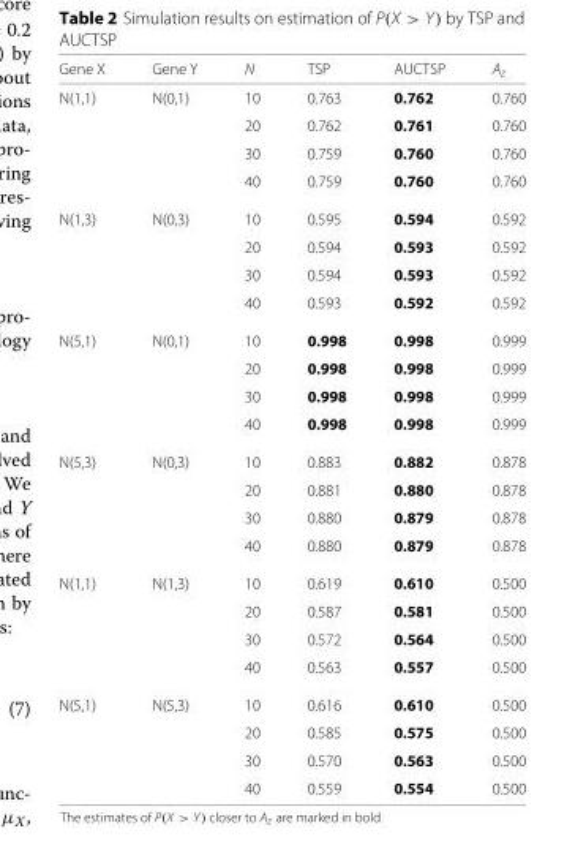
<table><thead><tr><td>Gene X</td><td>Gene Y</td><td>N</td><td>TSP</td><td>AUCTSP</td><td>A<sub>z</sub></td></tr></thead><tbody><tr><td rowspan="4">N(1,1)</td><td>N(0,1)</td><td>10</td><td>0.763</td><td>0.762</td><td>0.760</td></tr><tr><td></td><td>20</td><td>0.762</td><td>0.761</td><td>0.760</td></tr><tr><td></td><td>30</td><td>0.759</td><td>0.760</td><td>0.760</td></tr><tr><td></td><td>40</td><td>0.759</td><td>0.760</td><td>0.760</td></tr><tr><td rowspan="4">N(1,3)</td><td>N(0,3)</td><td>10</td><td>0.595</td><td>0.594</td><td>0.592</td></tr><tr><td></td><td>20</td><td>0.594</td><td>0.593</td><td>0.592</td></tr><tr><td></td><td>30</td><td>0.594</td><td>0.593</td><td>0.592</td></tr><tr><td></td><td>40</td><td>0.593</td><td>0.592</td><td>0.592</td></tr><tr><td rowspan="4">N(5,1)</td><td>N(0,1)</td><td>10</td><td>0.998</td><td>0.998</td><td>0.999</td></tr><tr><td></td><td>20</td><td>0.998</td><td>0.998</td><td>0.999</td></tr><tr><td></td><td>30</td><td>0.998</td><td>0.998</td><td>0.999</td></tr><tr><td></td><td>40</td><td>0.998</td><td>0.998</td><td>0.999</td></tr><tr><td rowspan="4">N(5,3)</td><td>N(0,3)</td><td>10</td><td>0.883</td><td>0.882</td><td>0.878</td></tr><tr><td></td><td>20</td><td>0.881</td><td>0.880</td><td>0.878</td></tr><tr><td></td><td>30</td><td>0.880</td><td>0.879</td><td>0.878</td></tr><tr><td></td><td>40</td><td>0.880</td><td>0.879</td><td>0.878</td></tr><tr><td rowspan="4">N(1,1)</td><td>N(1,3)</td><td>10</td><td>0.619</td><td>0.610</td><td>0.500</td></tr><tr><td></td><td>20</td><td>0.587</td><td>0.581</td><td>0.500</td></tr><tr><td></td><td>30</td><td>0.572</td><td>0.564</td><td>0.500</td></tr><tr><td></td><td>40</td><td>0.563</td><td>0.557</td><td>0.500</td></tr><tr><td rowspan="4">N(5,1)</td><td>N(5,3)</td><td>10</td><td>0.616</td><td>0.610</td><td>0.500</td></tr><tr><td></td><td>20</td><td>0.585</td><td>0.575</td><td>0.500</td></tr><tr><td></td><td>30</td><td>0.570</td><td>0.563</td><td>0.500</td></tr><tr><td></td><td>40</td><td>0.559</td><td>0.554</td><td>0.500</td></tr></tbody></table>